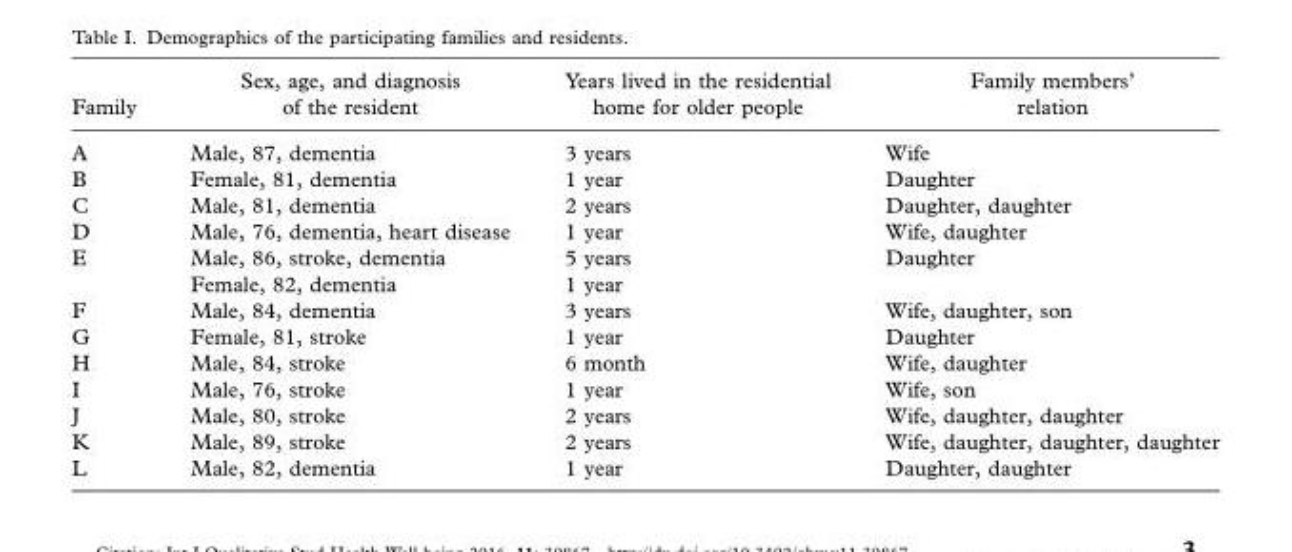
<table><thead><tr><td>Family</td><td>Sex, age, and diagnosis of the resident</td><td>Years lived in the residential home for older people</td><td>Family members’ relation</td></tr></thead><tbody><tr><td>A</td><td>Male, 87, dementia</td><td>3 years</td><td>Wife</td></tr><tr><td>B</td><td>Female, 81, dementia</td><td>1 year</td><td>Daughter</td></tr><tr><td>C</td><td>Male, 81, dementia</td><td>2 years</td><td>Daughter, daughter</td></tr><tr><td>D</td><td>Male, 76, dementia, heart disease</td><td>1 year</td><td>Wife, daughter</td></tr><tr><td>E</td><td>Male, 86, stroke, dementia Female, 82, dementia</td><td>5 years 1 year</td><td>Daughter</td></tr><tr><td>F</td><td>Male, 84, dementia</td><td>3 years</td><td>Wife, daughter, son</td></tr><tr><td>G</td><td>Female, 81, stroke</td><td>1 year</td><td>Daughter</td></tr><tr><td>H</td><td>Male, 84, stroke</td><td>6 month</td><td>Wife, daughter</td></tr><tr><td>I</td><td>Male, 76, stroke</td><td>1 year</td><td>Wife, son</td></tr><tr><td>J</td><td>Male, 80, stroke</td><td>2 years</td><td>Wife, daughter, daughter</td></tr><tr><td>K</td><td>Male, 89, stroke</td><td>2 years</td><td>Wife, daughter, daughter, daughter</td></tr><tr><td>L</td><td>Male, 82, dementia</td><td>1 year</td><td>Daughter, daughter</td></tr></tbody></table>